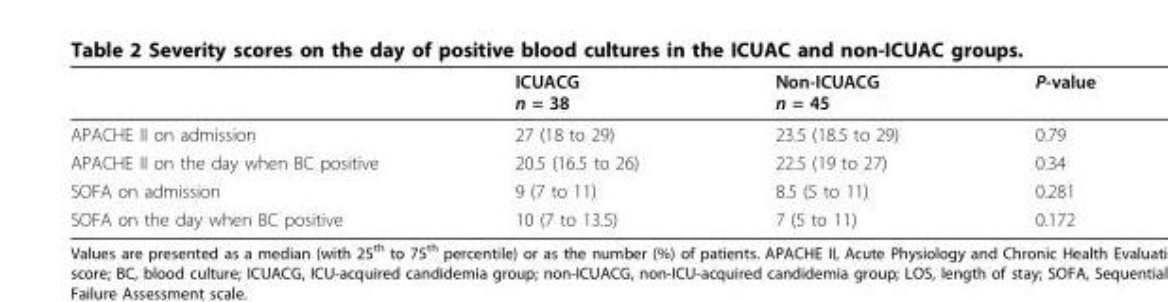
<table><thead><tr><td></td><td>ICUACG n = 38</td><td>Non-ICUACG n = 45</td><td>P-value</td></tr></thead><tbody><tr><td>APACHE II on admission</td><td>27 (18 to 29)</td><td>23.5 (18.5 to 29)</td><td>0.79</td></tr><tr><td>APACHE II on the day when BC positive</td><td>20.5 (16.5 to 26)</td><td>22.5 (19 to 27)</td><td>0.34</td></tr><tr><td>SOFA on admission</td><td>9 (7 to 11)</td><td>8.5 (5 to 11)</td><td>0.281</td></tr><tr><td>SOFA on the day when BC positive</td><td>10 (7 to 13.5)</td><td>7 (5 to 11)</td><td>0.172</td></tr></tbody></table>